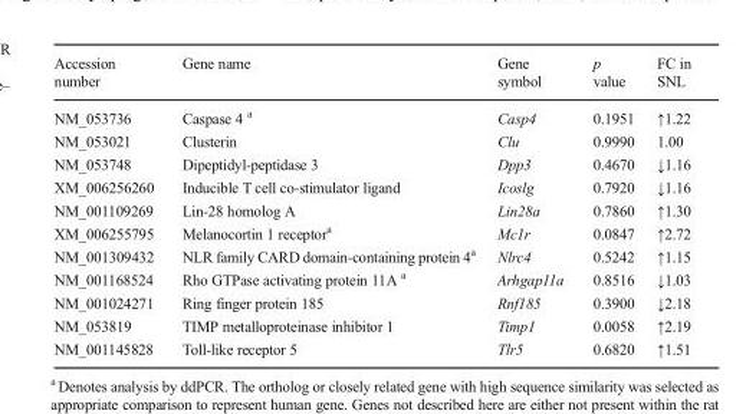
<table><thead><tr><td>Accession number</td><td>Gene name</td><td>Gene symbol</td><td>p value</td><td>FC in SNL</td></tr></thead><tbody><tr><td>NM_053736</td><td>Caspase 4 <sup>a</sup></td><td>Casp4</td><td>0.1951</td><td>↑1.22</td></tr><tr><td>NM_053021</td><td>Clusterin</td><td>Clu</td><td>0.9990</td><td>1.00</td></tr><tr><td>NM_053748</td><td>Dipeptidyl-peptidase 3</td><td>Dpp3</td><td>0.4670</td><td>↓1.16</td></tr><tr><td>XM_006256260</td><td>Inducible T cell co-stimulator ligand</td><td>Icoslg</td><td>0.7920</td><td>↓1.16</td></tr><tr><td>NM_001109269</td><td>Lin-28 homolog A</td><td>Lin28a</td><td>0.7860</td><td>↑1.30</td></tr><tr><td>XM_006255795</td><td>Melanocortin 1 receptor<sup>a</sup></td><td>Mc1r</td><td>0.0847</td><td>↑2.72</td></tr><tr><td>NM_001309432</td><td>NLR family CARD domain-containing protein 4<sup>a</sup></td><td>Nlrc4</td><td>0.5242</td><td>↑1.15</td></tr><tr><td>NM_001168524</td><td>Rho GTPase activating protein 11A <sup>a</sup></td><td>Arhgap11a</td><td>0.8516</td><td>↓1.03</td></tr><tr><td>NM_001024271</td><td>Ring finger protein 185</td><td>Rnf185</td><td>0.3900</td><td>↓2.18</td></tr><tr><td>NM_053819</td><td>TIMP metalloproteinase inhibitor 1</td><td>Timp1</td><td>0.0058</td><td>↑2.19</td></tr><tr><td>NM_001145828</td><td>Toll-like receptor 5</td><td>Tlr5</td><td>0.6820</td><td>↑1.51</td></tr></tbody></table>